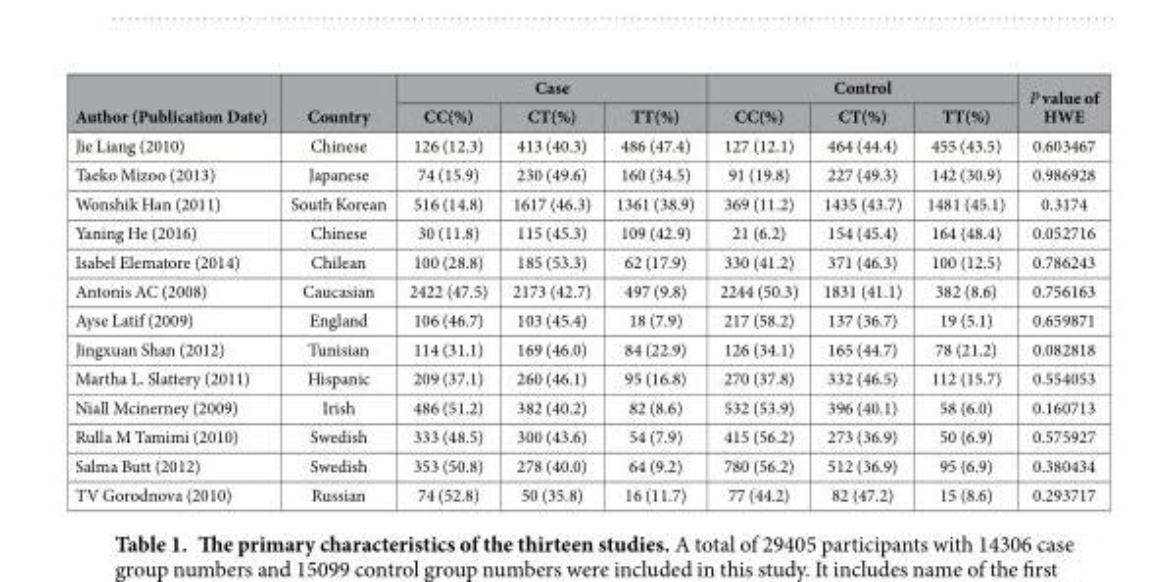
<table><thead><tr><td rowspan="2">Author (Publication Date)</td><td rowspan="2">Country</td><td colspan="3">Case</td><td colspan="3">Control</td><td rowspan="2">P value of HWE</td></tr><tr><td>CC(%)</td><td>CT(%)</td><td>TT(%)</td><td>CC(%)</td><td>CT(%)</td><td>TT(%)</td></tr></thead><tbody><tr><td>Jie Liang (2010)</td><td>Chinese</td><td>126 (12.3)</td><td>413 (40.3)</td><td>486 (47.4)</td><td>127 (12.1)</td><td>464 (44.4)</td><td>455 (43.5)</td><td>0.603467</td></tr><tr><td>Taeko Mizoo (2013)</td><td>Japanese</td><td>74 (15.9)</td><td>230 (49.6)</td><td>160 (34.5)</td><td>91 (19.8)</td><td>227 (49.3)</td><td>142 (30.9)</td><td>0.986928</td></tr><tr><td>Wonshik Han (2011)</td><td>South Korean</td><td>516 (14.8)</td><td>1617 (46.3)</td><td>1361 (38.9)</td><td>369 (11.2)</td><td>1435 (43.7)</td><td>1481 (45.1)</td><td>0.3174</td></tr><tr><td>Yaning He (2016)</td><td>Chinese</td><td>30 (11.8)</td><td>115 (45.3)</td><td>109 (42.9)</td><td>21 (6.2)</td><td>154 (45.4)</td><td>164 (48.4)</td><td>0.052716</td></tr><tr><td>Isabel Elematore (2014)</td><td>Chilean</td><td>100 (28.8)</td><td>185 (53.3)</td><td>62 (17.9)</td><td>330 (41.2)</td><td>371 (46.3)</td><td>100 (12.5)</td><td>0.786243</td></tr><tr><td>Antonis AC (2008)</td><td>Caucasian</td><td>2422 (47.5)</td><td>2173 (42.7)</td><td>497 (9.8)</td><td>2244 (50.3)</td><td>1831 (41.1)</td><td>382 (8.6)</td><td>0.756163</td></tr><tr><td>Ayse Latif (2009)</td><td>England</td><td>106 (46.7)</td><td>103 (45.4)</td><td>18 (7.9)</td><td>217 (58.2)</td><td>137 (36.7)</td><td>19 (5.1)</td><td>0.659871</td></tr><tr><td>Jingxuan Shan (2012)</td><td>Tunisian</td><td>114 (31.1)</td><td>169 (46.0)</td><td>84 (22.9)</td><td>126 (34.1)</td><td>165 (44.7)</td><td>78 (21.2)</td><td>0.082818</td></tr><tr><td>Martha L. Slattery (2011)</td><td>Hispanic</td><td>209 (37.1)</td><td>260 (46.1)</td><td>95 (16.8)</td><td>270 (37.8)</td><td>332 (46.5)</td><td>112 (15.7)</td><td>0.554053</td></tr><tr><td>Niall Mcinerney (2009)</td><td>Irish</td><td>486 (51.2)</td><td>382 (40.2)</td><td>82 (8.6)</td><td>532 (53.9)</td><td>396 (40.1)</td><td>58 (6.0)</td><td>0.160713</td></tr><tr><td>Rulla M Tamimi (2010)</td><td>Swedish</td><td>333 (48.5)</td><td>300 (43.6)</td><td>54 (7.9)</td><td>415 (56.2)</td><td>273 (36.9)</td><td>50 (6.9)</td><td>0.575927</td></tr><tr><td>Salma Butt (2012)</td><td>Swedish</td><td>353 (50.8)</td><td>278 (40.0)</td><td>64 (9.2)</td><td>780 (56.2)</td><td>512 (36.9)</td><td>95 (6.9)</td><td>0.380434</td></tr><tr><td>TV Gorodnova (2010)</td><td>Russian</td><td>74 (52.8)</td><td>50 (35.8)</td><td>16 (11.7)</td><td>77 (44.2)</td><td>82 (47.2)</td><td>15 (8.6)</td><td>0.293717</td></tr></tbody></table>